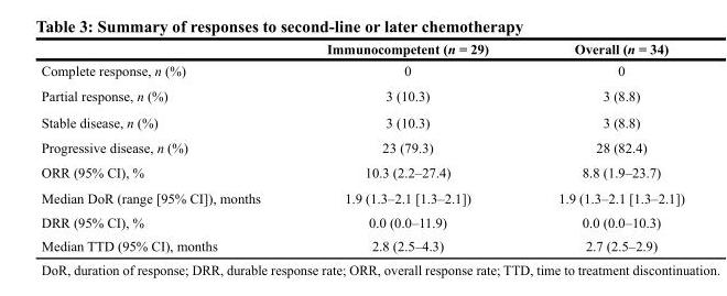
<table><thead><tr><td></td><td>Immunocompetent (n = 29)</td><td>Overall (n = 34)</td></tr></thead><tbody><tr><td>Complete response, n (%)</td><td>0</td><td>0</td></tr><tr><td>Partial response, n (%)</td><td>3 (10.3)</td><td>3 (8.8)</td></tr><tr><td>Stable disease, n (%)</td><td>3 (10.3)</td><td>3 (8.8)</td></tr><tr><td>Progressive disease, n (%)</td><td>23 (79.3)</td><td>28 (82.4)</td></tr><tr><td>ORR (95% CI), %</td><td>10.3 (2.2–27.4)</td><td>8.8 (1.9–23.7)</td></tr><tr><td>Median DoR (range [95% CI]), months</td><td>1.9 (1.3–2.1 [1.3–2.1])</td><td>1.9 (1.3–2.1 [1.3–2.1])</td></tr><tr><td>DRR (95% CI), %</td><td>0.0 (0.0–11.9)</td><td>0.0 (0.0–10.3)</td></tr><tr><td>Median TTD (95% CI), months</td><td>2.8 (2.5–4.3)</td><td>2.7 (2.5–2.9)</td></tr></tbody></table>